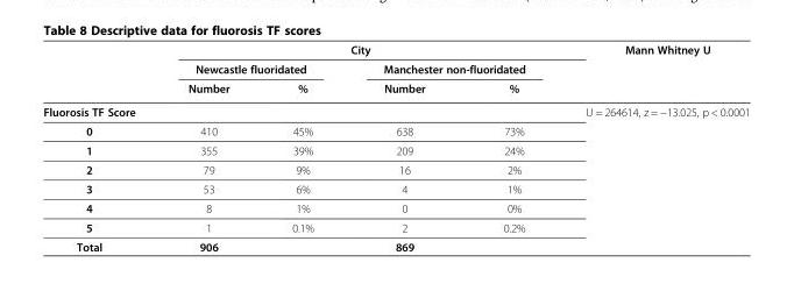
<table><thead><tr><td rowspan="3"></td><td colspan="4">City</td><td rowspan="3">Mann Whitney U</td></tr><tr><td colspan="2">Newcastle fluoridated</td><td colspan="2">Manchester non-fluoridated</td></tr><tr><td>Number</td><td>%</td><td>Number</td><td>%</td></tr></thead><tbody><tr><td>Fluorosis TF Score</td><td></td><td></td><td></td><td></td><td>U = 264614, z = −13.025, p &lt; 0.0001</td></tr><tr><td>0</td><td>410</td><td>45%</td><td>638</td><td>73%</td><td></td></tr><tr><td>1</td><td>355</td><td>39%</td><td>209</td><td>24%</td><td></td></tr><tr><td>2</td><td>79</td><td>9%</td><td>16</td><td>2%</td><td></td></tr><tr><td>3</td><td>53</td><td>6%</td><td>4</td><td>1%</td><td></td></tr><tr><td>4</td><td>8</td><td>1%</td><td>0</td><td>0%</td><td></td></tr><tr><td>5</td><td>1</td><td>0.1%</td><td>2</td><td>0.2%</td><td></td></tr><tr><td>Total</td><td>906</td><td></td><td>869</td><td></td><td></td></tr></tbody></table>